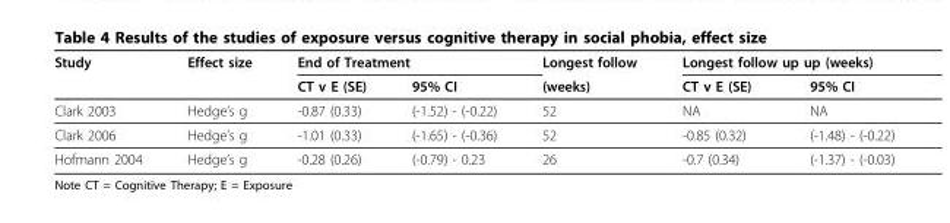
<table><thead><tr><td rowspan="2">Study</td><td rowspan="2">Effect size</td><td colspan="2">End of Treatment</td><td rowspan="2">Longest follow (weeks)</td><td colspan="2">Longest follow up up (weeks)</td></tr><tr><td>CT v E (SE)</td><td>95% CI</td><td>CT v E (SE)</td><td>95% CI</td></tr></thead><tbody><tr><td>Clark 2003</td><td>Hedge’s g</td><td>-0.87 (0.33)</td><td>(-1.52) - (-0.22)</td><td>52</td><td>NA</td><td>NA</td></tr><tr><td>Clark 2006</td><td>Hedge’s g</td><td>-1.01 (0.33)</td><td>(-1.65) - (-0.36)</td><td>52</td><td>-0.85 (0.32)</td><td>(-1.48) - (-0.22)</td></tr><tr><td>Hofmann 2004</td><td>Hedge’s g</td><td>-0.28 (0.26)</td><td>(-0.79) - 0.23</td><td>26</td><td>-0.7 (0.34)</td><td>(-1.37) - (-0.03)</td></tr></tbody></table>